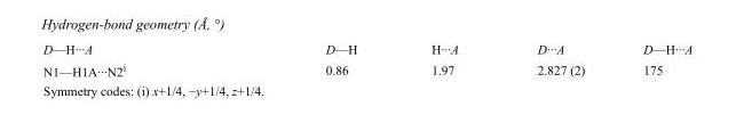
<table><tbody><tr><td>D—H···A</td><td>D—H</td><td>H···A</td><td>D···A</td><td>D—H···A</td></tr><tr><td>N1—H1A···N2<sup>i</sup></td><td>0.86</td><td>1.97</td><td>2.827 (2)</td><td>175</td></tr></tbody></table>